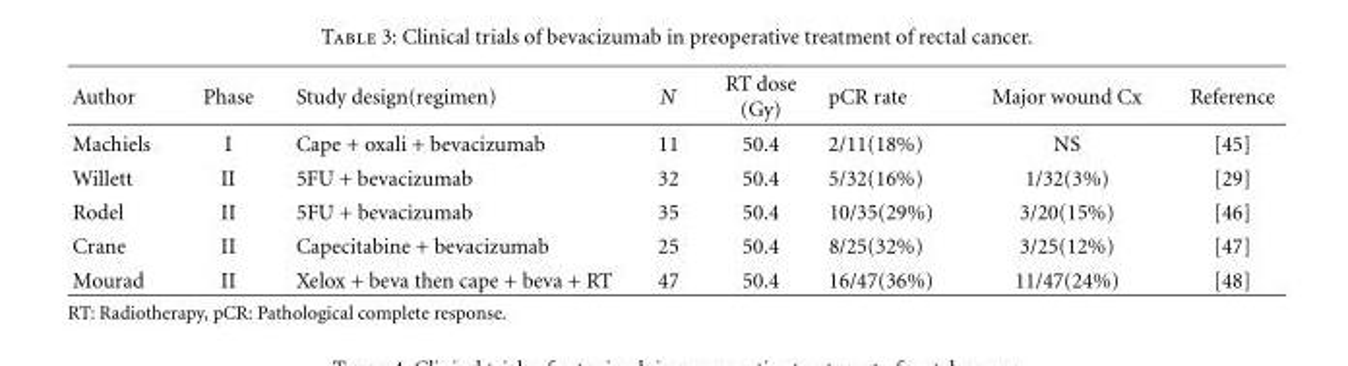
<table><thead><tr><td>Author</td><td>Phase</td><td>Study design(regimen)</td><td>N</td><td>RT dose (Gy)</td><td>pCR rate</td><td>Major wound Cx</td><td>Reference</td></tr></thead><tbody><tr><td>Machiels</td><td>I</td><td>Cape + oxali + bevacizumab</td><td>11</td><td>50.4</td><td>2/11(18%)</td><td>NS</td><td>[45]</td></tr><tr><td>Willett</td><td>II</td><td>5FU + bevacizumab</td><td>32</td><td>50.4</td><td>5/32(16%)</td><td>1/32(3%)</td><td>[29]</td></tr><tr><td>Rodel</td><td>II</td><td>5FU + bevacizumab</td><td>35</td><td>50.4</td><td>10/35(29%)</td><td>3/20(15%)</td><td>[46]</td></tr><tr><td>Crane</td><td>II</td><td>Capecitabine + bevacizumab</td><td>25</td><td>50.4</td><td>8/25(32%)</td><td>3/25(12%)</td><td>[47]</td></tr><tr><td>Mourad</td><td>II</td><td>Xelox + beva then cape + beva + RT</td><td>47</td><td>50.4</td><td>16/47(36%)</td><td>11/47(24%)</td><td>[48]</td></tr></tbody></table>